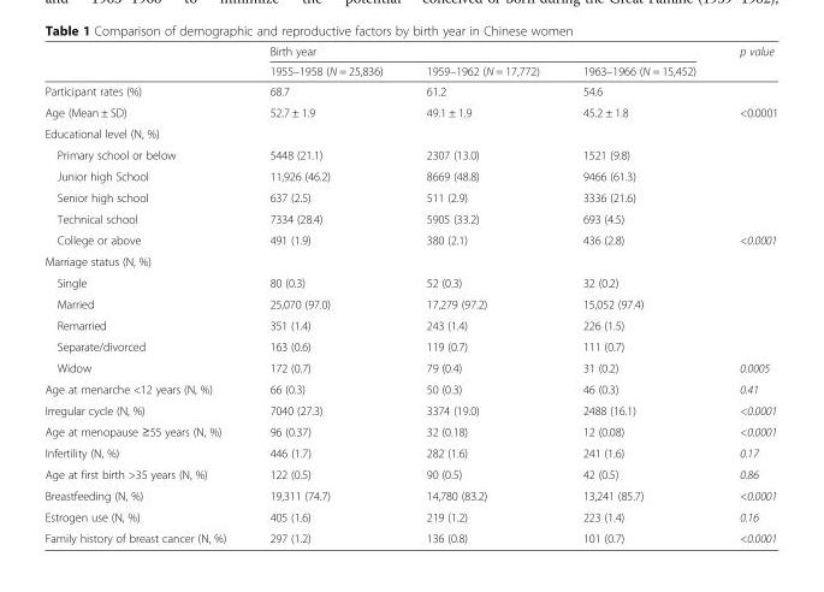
<table><thead><tr><td rowspan="2"></td><td colspan="3">Birth year</td><td rowspan="2">p value</td></tr><tr><td>1955–1958 (N = 25,836)</td><td>1959–1962 (N = 17,772)</td><td>1963–1966 (N = 15,452)</td></tr></thead><tbody><tr><td>Participant rates (%)</td><td>68.7</td><td>61.2</td><td>54.6</td><td></td></tr><tr><td>Age (Mean ± SD)</td><td>52.7 ± 1.9</td><td>49.1 ± 1.9</td><td>45.2 ± 1.8</td><td>&lt;0.0001</td></tr><tr><td colspan="5">Educational level (N, %)</td></tr><tr><td>Primary school or below</td><td>5448 (21.1)</td><td>2307 (13.0)</td><td>1521 (9.8)</td><td></td></tr><tr><td>Junior high School</td><td>11,926 (46.2)</td><td>8669 (48.8)</td><td>9466 (61.3)</td><td></td></tr><tr><td>Senior high school</td><td>637 (2.5)</td><td>511 (2.9)</td><td>3336 (21.6)</td><td></td></tr><tr><td>Technical school</td><td>7334 (28.4)</td><td>5905 (33.2)</td><td>693 (4.5)</td><td></td></tr><tr><td>College or above</td><td>491 (1.9)</td><td>380 (2.1)</td><td>436 (2.8)</td><td>&lt;0.0001</td></tr><tr><td colspan="5">Marriage status (N, %)</td></tr><tr><td>Single</td><td>80 (0.3)</td><td>52 (0.3)</td><td>32 (0.2)</td><td></td></tr><tr><td>Married</td><td>25,070 (97.0)</td><td>17,279 (97.2)</td><td>15,052 (97.4)</td><td></td></tr><tr><td>Remarried</td><td>351 (1.4)</td><td>243 (1.4)</td><td>226 (1.5)</td><td></td></tr><tr><td>Separate/divorced</td><td>163 (0.6)</td><td>119 (0.7)</td><td>111 (0.7)</td><td></td></tr><tr><td>Widow</td><td>172 (0.7)</td><td>79 (0.4)</td><td>31 (0.2)</td><td>0.0005</td></tr><tr><td>Age at menarche &lt;12 years (N, %)</td><td>66 (0.3)</td><td>50 (0.3)</td><td>46 (0.3)</td><td>0.41</td></tr><tr><td>Irregular cycle (N, %)</td><td>7040 (27.3)</td><td>3374 (19.0)</td><td>2488 (16.1)</td><td>&lt;0.0001</td></tr><tr><td>Age at menopause ≥55 years (N, %)</td><td>96 (0.37)</td><td>32 (0.18)</td><td>12 (0.08)</td><td>&lt;0.0001</td></tr><tr><td>Infertility (N, %)</td><td>446 (1.7)</td><td>282 (1.6)</td><td>241 (1.6)</td><td>0.17</td></tr><tr><td>Age at first birth &gt;35 years (N, %)</td><td>122 (0.5)</td><td>90 (0.5)</td><td>42 (0.5)</td><td>0.86</td></tr><tr><td>Breastfeeding (N, %)</td><td>19,311 (74.7)</td><td>14,780 (83.2)</td><td>13,241 (85.7)</td><td>&lt;0.0001</td></tr><tr><td>Estrogen use (N, %)</td><td>405 (1.6)</td><td>219 (1.2)</td><td>223 (1.4)</td><td>0.16</td></tr><tr><td>Family history of breast cancer (N, %)</td><td>297 (1.2)</td><td>136 (0.8)</td><td>101 (0.7)</td><td>&lt;0.0001</td></tr></tbody></table>